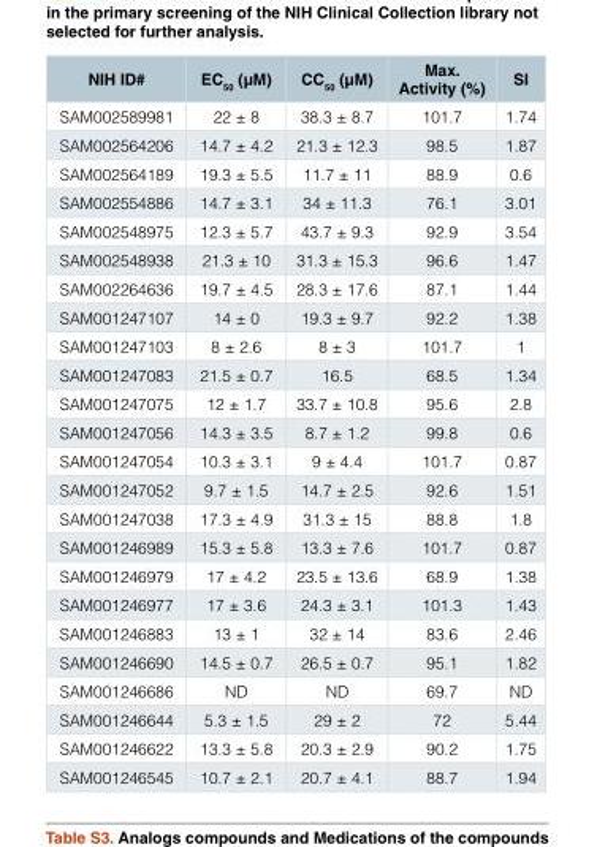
<table><thead><tr><td>NIH ID#</td><td>EC50 (µM)</td><td>CC50 (µM)</td><td>Max. Activity (%)</td><td>SI</td></tr></thead><tbody><tr><td>SAM002589981</td><td>22 ± 8</td><td>38.3 ± 8.7</td><td>101.7</td><td>1.74</td></tr><tr><td>SAM002564206</td><td>14.7 ± 4.2</td><td>21.3 ± 12.3</td><td>98.5</td><td>1.87</td></tr><tr><td>SAM002564189</td><td>19.3 ± 5.5</td><td>11.7 ± 11</td><td>88.9</td><td>0.6</td></tr><tr><td>SAM002554886</td><td>14.7 ± 3.1</td><td>34 ± 11.3</td><td>76.1</td><td>3.01</td></tr><tr><td>SAM002548975</td><td>12.3 ± 5.7</td><td>43.7 ± 9.3</td><td>92.9</td><td>3.54</td></tr><tr><td>SAM002548938</td><td>21.3 ± 10</td><td>31.3 ± 15.3</td><td>96.6</td><td>1.47</td></tr><tr><td>SAM002264636</td><td>19.7 ± 4.5</td><td>28.3 ± 17.6</td><td>87.1</td><td>1.44</td></tr><tr><td>SAM001247107</td><td>14 ± 0</td><td>19.3 ± 9.7</td><td>92.2</td><td>1.38</td></tr><tr><td>SAM001247103</td><td>8 ± 2.6</td><td>8 ± 3</td><td>101.7</td><td>1</td></tr><tr><td>SAM001247083</td><td>21.5 ± 0.7</td><td>16.5</td><td>68.5</td><td>1.34</td></tr><tr><td>SAM001247075</td><td>12 ± 1.7</td><td>33.7 ± 10.8</td><td>95.6</td><td>2.8</td></tr><tr><td>SAM001247056</td><td>14.3 ± 3.5</td><td>8.7 ± 1.2</td><td>99.8</td><td>0.6</td></tr><tr><td>SAM001247054</td><td>10.3 ± 3.1</td><td>9 ± 4.4</td><td>101.7</td><td>0.87</td></tr><tr><td>SAM001247052</td><td>9.7 ± 1.5</td><td>14.7 ± 2.5</td><td>92.6</td><td>1.51</td></tr><tr><td>SAM001247038</td><td>17.3 ± 4.9</td><td>31.3 ± 15</td><td>88.8</td><td>1.8</td></tr><tr><td>SAM001246989</td><td>15.3 ± 5.8</td><td>13.3 ± 7.6</td><td>101.7</td><td>0.87</td></tr><tr><td>SAM001246979</td><td>17 ± 4.2</td><td>23.5 ± 13.6</td><td>68.9</td><td>1.38</td></tr><tr><td>SAM001246977</td><td>17 ± 3.6</td><td>24.3 ± 3.1</td><td>101.3</td><td>1.43</td></tr><tr><td>SAM001246883</td><td>13 ± 1</td><td>32 ± 14</td><td>83.6</td><td>2.46</td></tr><tr><td>SAM001246690</td><td>14.5 ± 0.7</td><td>26.5 ± 0.7</td><td>95.1</td><td>1.82</td></tr><tr><td>SAM001246686</td><td>ND</td><td>ND</td><td>69.7</td><td>ND</td></tr><tr><td>SAM001246644</td><td>5.3 ± 1.5</td><td>29 ± 2</td><td>72</td><td>5.44</td></tr><tr><td>SAM001246622</td><td>13.3 ± 5.8</td><td>20.3 ± 2.9</td><td>90.2</td><td>1.75</td></tr><tr><td>SAM001246545</td><td>10.7 ± 2.1</td><td>20.7 ± 4.1</td><td>88.7</td><td>1.94</td></tr></tbody></table>